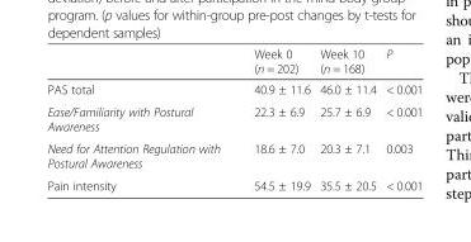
<table><thead><tr><td></td><td>Week 0 (n = 202)</td><td>Week 10 (n = 168)</td><td>P</td></tr></thead><tbody><tr><td>PAS total</td><td>40.9 ± 11.6</td><td>46.0 ± 11.4</td><td>&lt; 0.001</td></tr><tr><td>Ease/Familiarity with Postural Awareness</td><td>22.3 ± 6.9</td><td>25.7 ± 6.9</td><td>&lt; 0.001</td></tr><tr><td>Need for Attention Regulation with Postural Awareness</td><td>18.6 ± 7.0</td><td>20.3 ± 7.1</td><td>0.003</td></tr><tr><td>Pain intensity</td><td>54.5 ± 19.9</td><td>35.5 ± 20.5</td><td>&lt; 0.001</td></tr></tbody></table>